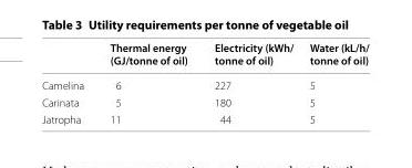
<table><thead><tr><td></td><td>Thermal energy (GJ/tonne of oil)</td><td>Electricity (kWh/ tonne of oil)</td><td>Water (kL/h/ tonne of oil)</td></tr></thead><tbody><tr><td>Camelina</td><td>6</td><td>227</td><td>5</td></tr><tr><td>Carinata</td><td>5</td><td>180</td><td>5</td></tr><tr><td>Jatropha</td><td>11</td><td>44</td><td>5</td></tr></tbody></table>